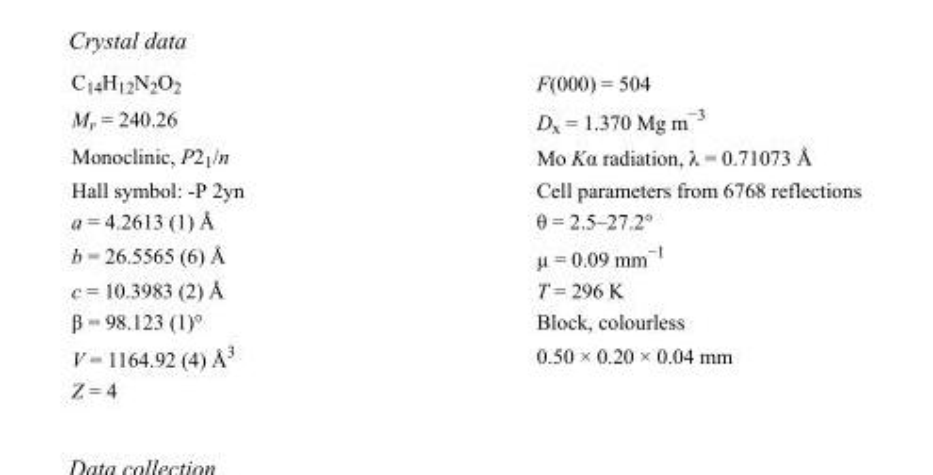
<table><tbody><tr><td>C<sub>14</sub>H<sub>12</sub>N<sub>2</sub>O<sub>2</sub></td><td>F(000) = 504</td></tr><tr><td>M<sub>r</sub> = 240.26</td><td>D<sub>x</sub> = 1.370 Mg m<sup>−3</sup></td></tr><tr><td>Monoclinic, P2<sub>1</sub>/n</td><td>Mo Kα radiation, λ = 0.71073 Å</td></tr><tr><td>Hall symbol: -P 2yn</td><td>Cell parameters from 6768 reflections</td></tr><tr><td>a = 4.2613 (1) Å</td><td>θ = 2.5–27.2°</td></tr><tr><td>b = 26.5565 (6) Å</td><td>µ = 0.09 mm<sup>−1</sup></td></tr><tr><td>c = 10.3983 (2) Å</td><td>T = 296 K</td></tr><tr><td>β = 98.123 (1)°</td><td>Block, colourless</td></tr><tr><td>V = 1164.92 (4) Å<sup>3</sup></td><td>0.50 × 0.20 × 0.04 mm</td></tr><tr><td>Z = 4</td><td></td></tr></tbody></table>